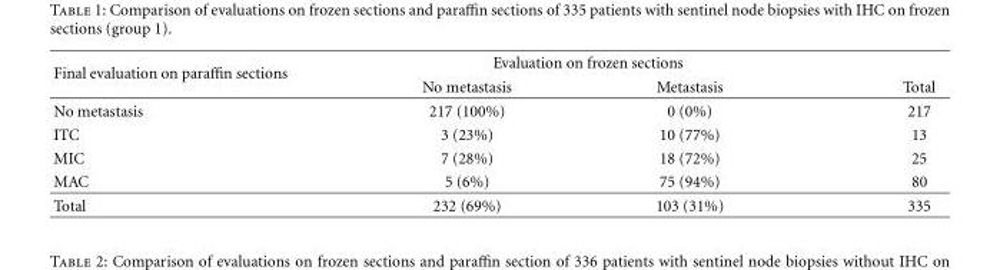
<table><thead><tr><td rowspan="2">Final evaluation on paraffin sections</td><td colspan="2">Evaluation on frozen sections</td><td rowspan="2">Total</td></tr><tr><td>No metastasis</td><td>Metastasis</td></tr></thead><tbody><tr><td>No metastasis</td><td>217 (100%)</td><td>0 (0%)</td><td>217</td></tr><tr><td>ITC</td><td>3 (23%)</td><td>10 (77%)</td><td>13</td></tr><tr><td>MIC</td><td>7 (28%)</td><td>18 (72%)</td><td>25</td></tr><tr><td>MAC</td><td>5 (6%)</td><td>75 (94%)</td><td>80</td></tr><tr><td>Total</td><td>232 (69%)</td><td>103 (31%)</td><td>335</td></tr></tbody></table>